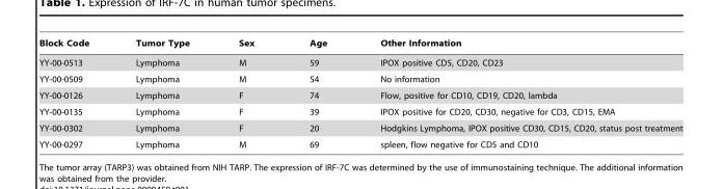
<table><thead><tr><td>Block Code</td><td>Tumor Type</td><td>Sex</td><td>Age</td><td>Other Information</td></tr></thead><tbody><tr><td>YY-00-0513</td><td>Lymphoma</td><td>M</td><td>59</td><td>IPOX positive CD5, CD20, CD23</td></tr><tr><td>YY-00-0509</td><td>Lymphoma</td><td>M</td><td>54</td><td>No information</td></tr><tr><td>YY-00-0126</td><td>Lymphoma</td><td>F</td><td>74</td><td>Flow, positive for CD10, CD19, CD20, lambda</td></tr><tr><td>YY-00-0135</td><td>Lymphoma</td><td>F</td><td>39</td><td>IPOX positive for CD20, CD30, negative for CD3, CD15, EMA</td></tr><tr><td>YY-00-0302</td><td>Lymphoma</td><td>F</td><td>20</td><td>Hodgkins Lymphoma, IPOX positive CD30, CD15, CD20, status post treatment</td></tr><tr><td>YY-00-0297</td><td>Lymphoma</td><td>M</td><td>69</td><td>spleen, flow negative for CD5 and CD10</td></tr></tbody></table>